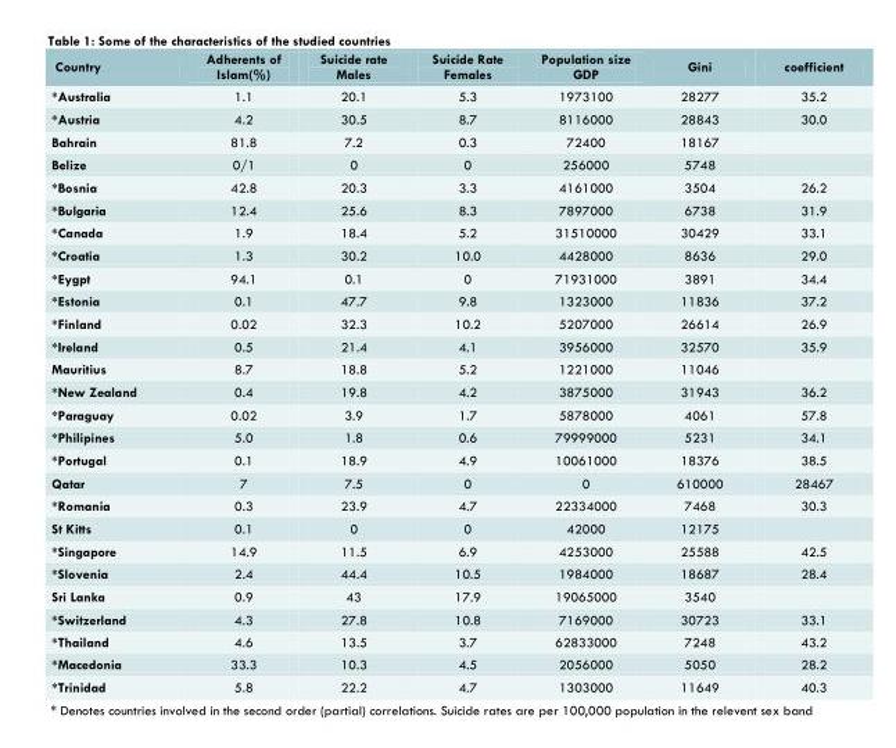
<table><thead><tr><td>Country</td><td>Adherents of Islam(%)</td><td>Suicide rate Males</td><td>Suicide Rate Females</td><td>Population size GDP</td><td>Gini</td><td>coefficient</td></tr></thead><tbody><tr><td>*Australia</td><td>1.1</td><td>20.1</td><td>5.3</td><td>1973100</td><td>28277</td><td>35.2</td></tr><tr><td>*Austria</td><td>4.2</td><td>30.5</td><td>8.7</td><td>8116000</td><td>28843</td><td>30.0</td></tr><tr><td>Bahrain</td><td>81.8</td><td>7.2</td><td>0.3</td><td>72400</td><td>18167</td><td></td></tr><tr><td>Belize</td><td>0/1</td><td>0</td><td>0</td><td>256000</td><td>5748</td><td></td></tr><tr><td>*Bosnia</td><td>42.8</td><td>20.3</td><td>3.3</td><td>4161000</td><td>3504</td><td>26.2</td></tr><tr><td>*Bulgaria</td><td>12.4</td><td>25.6</td><td>8.3</td><td>7897000</td><td>6738</td><td>31.9</td></tr><tr><td>*Canada</td><td>1.9</td><td>18.4</td><td>5.2</td><td>31510000</td><td>30429</td><td>33.1</td></tr><tr><td>*Croatia</td><td>1.3</td><td>30.2</td><td>10.0</td><td>4428000</td><td>8636</td><td>29.0</td></tr><tr><td>*Eygpt</td><td>94.1</td><td>0.1</td><td>0</td><td>71931000</td><td>3891</td><td>34.4</td></tr><tr><td>*Estonia</td><td>0.1</td><td>47.7</td><td>9.8</td><td>1323000</td><td>11836</td><td>37.2</td></tr><tr><td>*Finland</td><td>0.02</td><td>32.3</td><td>10.2</td><td>5207000</td><td>26614</td><td>26.9</td></tr><tr><td>*Ireland</td><td>0.5</td><td>21.4</td><td>4.1</td><td>3956000</td><td>32570</td><td>35.9</td></tr><tr><td>Mauritius</td><td>8.7</td><td>18.8</td><td>5.2</td><td>1221000</td><td>11046</td><td></td></tr><tr><td>*New Zealand</td><td>0.4</td><td>19.8</td><td>4.2</td><td>3875000</td><td>31943</td><td>36.2</td></tr><tr><td>*Paraguay</td><td>0.02</td><td>3.9</td><td>1.7</td><td>5878000</td><td>4061</td><td>57.8</td></tr><tr><td>*Philipines</td><td>5.0</td><td>1.8</td><td>0.6</td><td>79999000</td><td>5231</td><td>34.1</td></tr><tr><td>*Portugal</td><td>0.1</td><td>18.9</td><td>4.9</td><td>10061000</td><td>18376</td><td>38.5</td></tr><tr><td>Qatar</td><td>7</td><td>7.5</td><td>0</td><td>0</td><td>610000</td><td>28467</td></tr><tr><td>*Romania</td><td>0.3</td><td>23.9</td><td>4.7</td><td>22334000</td><td>7468</td><td>30.3</td></tr><tr><td>St Kitts</td><td>0.1</td><td>0</td><td>0</td><td>42000</td><td>12175</td><td></td></tr><tr><td>*Singapore</td><td>14.9</td><td>11.5</td><td>6.9</td><td>4253000</td><td>25588</td><td>42.5</td></tr><tr><td>*Slovenia</td><td>2.4</td><td>44.4</td><td>10.5</td><td>1984000</td><td>18687</td><td>28.4</td></tr><tr><td>Sri Lanka</td><td>0.9</td><td>43</td><td>17.9</td><td>19065000</td><td>3540</td><td></td></tr><tr><td>*Switzerland</td><td>4.3</td><td>27.8</td><td>10.8</td><td>7169000</td><td>30723</td><td>33.1</td></tr><tr><td>*Thailand</td><td>4.6</td><td>13.5</td><td>3.7</td><td>62833000</td><td>7248</td><td>43.2</td></tr><tr><td>*Macedonia</td><td>33.3</td><td>10.3</td><td>4.5</td><td>2056000</td><td>5050</td><td>28.2</td></tr><tr><td>*Trinidad</td><td>5.8</td><td>22.2</td><td>4.7</td><td>1303000</td><td>11649</td><td>40.3</td></tr></tbody></table>